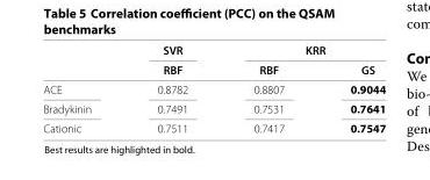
<table><thead><tr><td rowspan="2"></td><td rowspan="2">SVR RBF</td><td colspan="2">KRR</td></tr><tr><td>RBF</td><td>GS</td></tr></thead><tbody><tr><td>ACE</td><td>0.8782</td><td>0.8807</td><td>0.9044</td></tr><tr><td>Bradykinin</td><td>0.7491</td><td>0.7531</td><td>0.7641</td></tr><tr><td>Cationic</td><td>0.7511</td><td>0.7417</td><td>0.7547</td></tr></tbody></table>